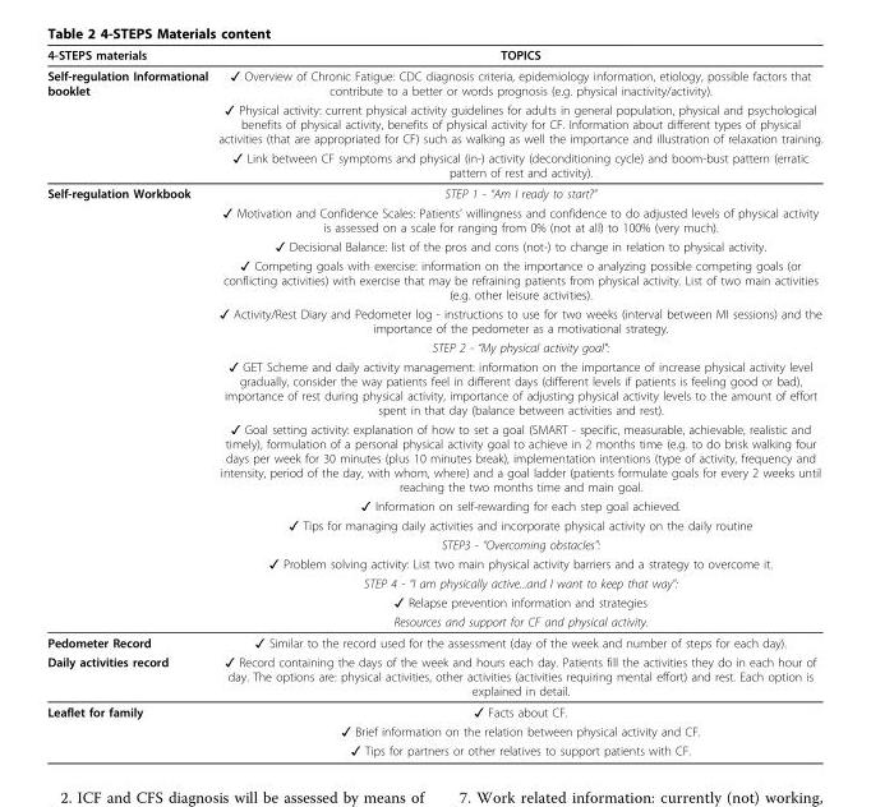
<table><thead><tr><td>4-STEPS materials</td><td>TOPICS</td></tr></thead><tbody><tr><td rowspan="3">Self-regulation Informational booklet</td><td>✓ Overview of Chronic Fatigue: CDC diagnosis criteria, epidemiology information, etiology, possible factors that contribute to a better or words prognosis (e.g. physical inactivity/activity).</td></tr><tr><td>✓ Physical activity: current physical activity guidelines for adults in general population, physical and psychological benefits of physical activity, benefits of physical activity for CF. Information about different types of physical activities (that are appropriated for CF) such as walking as well the importance and illustration of relaxation training.</td></tr><tr><td>✓ Link between CF symptoms and physical (in-) activity (deconditioning cycle) and boom-bust pattern (erratic pattern of rest and activity).</td></tr><tr><td rowspan="15">Self-regulation Workbook</td><td>STEP 1 - “Am I ready to start?”</td></tr><tr><td>✓ Motivation and Confidence Scales: Patients’ willingness and confidence to do adjusted levels of physical activity is assessed on a scale for ranging from 0% (not at all) to 100% (very much).</td></tr><tr><td>✓ Decisional Balance: list of the pros and cons (not-) to change in relation to physical activity.</td></tr><tr><td>✓ Competing goals with exercise: information on the importance o analyzing possible competing goals (or conflicting activities) with exercise that may be refraining patients from physical activity. List of two main activities (e.g. other leisure activities).</td></tr><tr><td>✓ Activity/Rest Diary and Pedometer log - instructions to use for two weeks (interval between MI sessions) and the importance of the pedometer as a motivational strategy.</td></tr><tr><td>STEP 2 - “My physical activity goal&quot;:</td></tr><tr><td>✓ GET Scheme and daily activity management: information on the importance of increase physical activity level gradually, consider the way patients feel in different days (different levels if patients is feeling good or bad), importance of rest during physical activity, importance of adjusting physical activity levels to the amount of effort spent in that day (balance between activities and rest).</td></tr><tr><td>✓ Goal setting activity: explanation of how to set a goal (SMART - specific, measurable, achievable, realistic and timely), formulation of a personal physical activity goal to achieve in 2 months time (e.g. to do brisk walking four days per week for 30 minutes (plus 10 minutes break), implementation intentions (type of activity, frequency and intensity, period of the day, with whom, where) and a goal ladder (patients formulate goals for every 2 weeks until reaching the two months time and main goal.</td></tr><tr><td>✓ Information on self-rewarding for each step goal achieved.</td></tr><tr><td>✓ Tips for managing daily activities and incorporate physical activity on the daily routine</td></tr><tr><td>STEP3 - “Overcoming obstacles&quot;:</td></tr><tr><td>✓ Problem solving activity: List two main physical activity barriers and a strategy to overcome it.</td></tr><tr><td>STEP 4 - “I am physically active...and I want to keep that way&quot;:</td></tr><tr><td>✓ Relapse prevention information and strategies</td></tr><tr><td>Resources and support for CF and physical activity.</td></tr><tr><td>Pedometer Record</td><td>✓ Similar to the record used for the assessment (day of the week and number of steps for each day).</td></tr><tr><td>Daily activities record</td><td>✓ Record containing the days of the week and hours each day. Patients fill the activities they do in each hour of day. The options are: physical activities, other activities (activities requiring mental effort) and rest. Each option is explained in detail.</td></tr><tr><td rowspan="3">Leaflet for family</td><td>✓ Facts about CF.</td></tr><tr><td>✓ Brief information on the relation between physical activity and CF.</td></tr><tr><td>✓ Tips for partners or other relatives to support patients with CF.</td></tr></tbody></table>